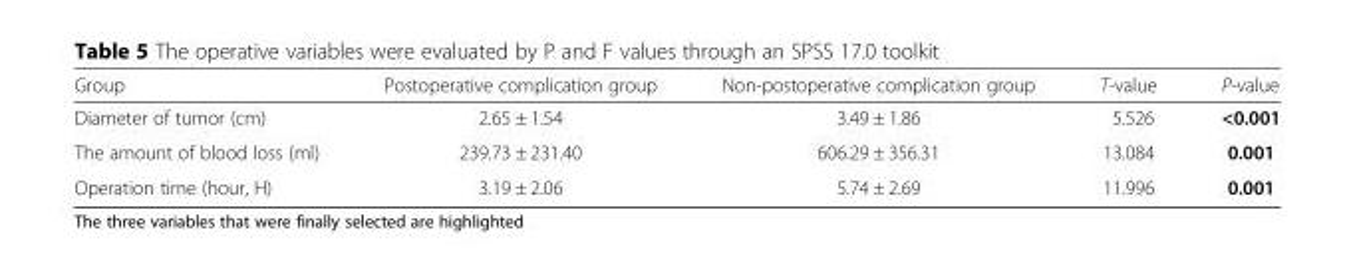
<table><thead><tr><td>Group</td><td>Postoperative complication group</td><td>Non-postoperative complication group</td><td>T-value</td><td>P-value</td></tr></thead><tbody><tr><td>Diameter of tumor (cm)</td><td>2.65 ± 1.54</td><td>3.49 ± 1.86</td><td>5.526</td><td>&lt;0.001</td></tr><tr><td>The amount of blood loss (ml)</td><td>239.73 ± 231.40</td><td>606.29 ± 356.31</td><td>13.084</td><td>0.001</td></tr><tr><td>Operation time (hour, H)</td><td>3.19 ± 2.06</td><td>5.74 ± 2.69</td><td>11.996</td><td>0.001</td></tr></tbody></table>